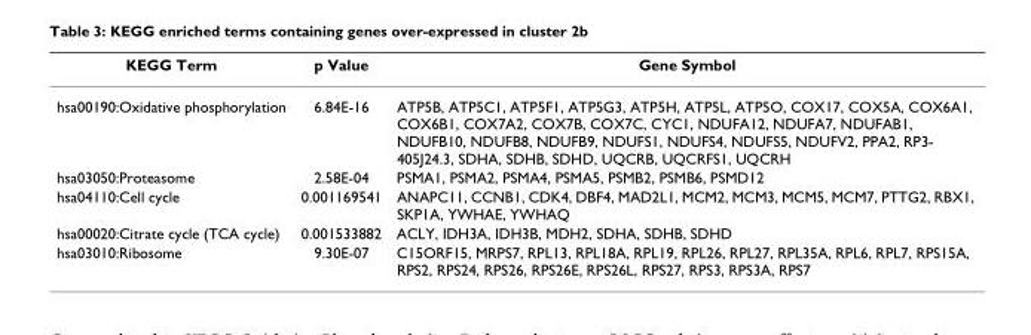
<table><thead><tr><td>KEGG Term</td><td>p Value</td><td>Gene Symbol</td></tr></thead><tbody><tr><td>hsa00190:Oxidative phosphorylation</td><td>6.84E-16</td><td>ATP5B, ATP5C1, ATP5F1, ATP5G3, ATP5H, ATP5L, ATP5O, COX17, COX5A, COX6A1, COX6B1, COX7A2, COX7B, COX7C, CYC1, NDUFA12, NDUFA7, NDUFAB1, NDUFB10, NDUFB8, NDUFB9, NDUFS1, NDUFS4, NDUFS5, NDUFV2, PPA2, RP3- 405J24.3, SDHA, SDHB, SDHD, UQCRB, UQCRFS1, UQCRH</td></tr><tr><td>hsa03050:Proteasome</td><td>2.58E-04</td><td>PSMA1, PSMA2, PSMA4, PSMA5, PSMB2, PSMB6, PSMD12</td></tr><tr><td>hsa04110:Cell cycle</td><td>0.001169541</td><td>ANAPC11, CCNB1, CDK4, DBF4, MAD2L1, MCM2, MCM3, MCM5, MCM7, PTTG2, RBX1, SKP1A, YWHAE, YWHAQ</td></tr><tr><td>hsa00020:Citrate cycle (TCA cycle)</td><td>0.001533882</td><td>ACLY, IDH3A, IDH3B, MDH2, SDHA, SDHB, SDHD</td></tr><tr><td>hsa03010:Ribosome</td><td>9.30E-07</td><td>C15ORF15, MRPS7, RPL13, RPL18A, RPL19, RPL26, RPL27, RPL35A, RPL6, RPL7, RPS15A, RPS2, RPS24, RPS26, RPS26E, RPS26L, RPS27, RPS3, RPS3A, RPS7</td></tr></tbody></table>